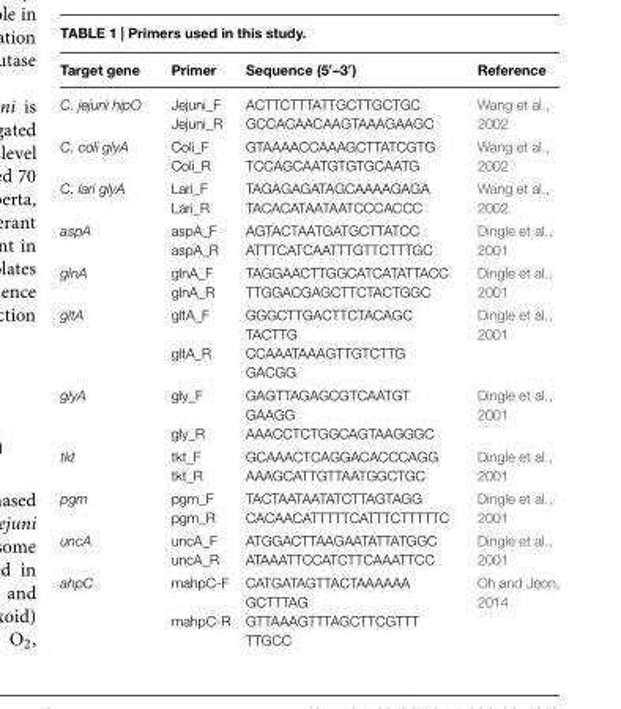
<table><thead><tr><td>Target gene</td><td>Primer</td><td>Sequence (5′–3′)</td><td>Reference</td></tr></thead><tbody><tr><td>C. jejuni hipO</td><td>Jejuni_F Jejuni_R</td><td>ACTTCTTTATTGCTTGCTGC GCCACAACAAGTAAAGAAGC</td><td>Wang et al., 2002</td></tr><tr><td>C. coli glyA</td><td>Coli_F Coli_R</td><td>GTAAAACCAAAGCTTATCGTG TCCAGCAATGTGTGCAATG</td><td>Wang et al., 2002</td></tr><tr><td>C. lari glyA</td><td>Lari_F Lari_R</td><td>TAGAGAGATAGCAAAAGAGA TACACATAATAATCCCACCC</td><td>Wang et al., 2002</td></tr><tr><td>aspA</td><td>aspA_F aspA_R</td><td>AGTACTAATGATGCTTATCC ATTTCATCAATTTGTTCTTTGC</td><td>Dingle et al., 2001</td></tr><tr><td>glnA</td><td>glnA_F glnA_R</td><td>TAGGAACTTGGCATCATATTACC TTGGACGAGCTTCTACTGGC</td><td>Dingle et al., 2001</td></tr><tr><td>gltA</td><td>gltA_F gltA_R</td><td>GGGCTTGACTTCTACAGC TACTTG CCAAATAAAGTTGTCTTG GACGG</td><td>Dingle et al., 2001</td></tr><tr><td>glyA</td><td>gly_F gly_R</td><td>GAGTTAGAGCGTCAATGT GAAGG AAACCTCTGGCAGTAAGGGC</td><td>Dingle et al., 2001</td></tr><tr><td>tkt</td><td>tkt_F tkt_R</td><td>GCAAACTCAGGACACCCAGG AAAGCATTGTTAATGGCTGC</td><td>Dingle et al., 2001</td></tr><tr><td>pgm</td><td>pgm_F pgm_R</td><td>TACTAATAATATCTTAGTAGG CACAACATTTTTCATTTCTTTTTC</td><td>Dingle et al., 2001</td></tr><tr><td>uncA</td><td>uncA_F uncA_R</td><td>ATGGACTTAAGAATATTATGGC ATAAATTCCATCTTCAAATTCC</td><td>Dingle et al., 2001</td></tr><tr><td>ahpC</td><td>mahpC-F mahpC-R</td><td>CATGATAGTTACTAAAAAA GCTTTAG GTTAAAGTTTAGCTTCGTTT TTGCC</td><td>Oh and Jeon, 2014</td></tr></tbody></table>